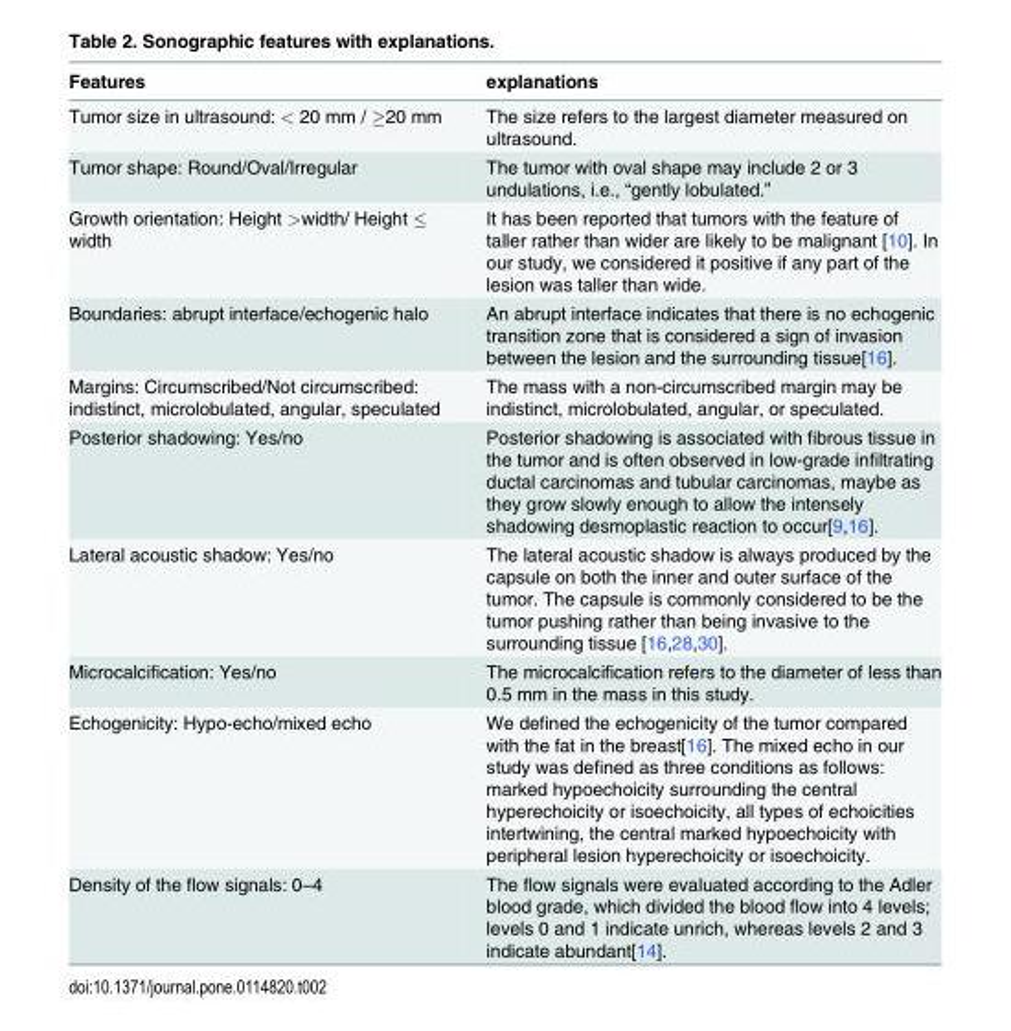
<table><thead><tr><td>Features</td><td>explanations</td></tr></thead><tbody><tr><td>Tumor size in ultrasound: &lt; 20 mm / ≥20 mm</td><td>The size refers to the largest diameter measured on ultrasound.</td></tr><tr><td>Tumor shape: Round/Oval/Irregular</td><td>The tumor with oval shape may include 2 or 3 undulations, i.e., “gently lobulated.”</td></tr><tr><td>Growth orientation: Height &gt;width/ Height ≤ width</td><td>It has been reported that tumors with the feature of taller rather than wider are likely to be malignant [10]. In our study, we considered it positive if any part of the lesion was taller than wide.</td></tr><tr><td>Boundaries: abrupt interface/echogenic halo</td><td>An abrupt interface indicates that there is no echogenic transition zone that is considered a sign of invasion between the lesion and the surrounding tissue[16].</td></tr><tr><td>Margins: Circumscribed/Not circumscribed: indistinct, microlobulated, angular, speculated</td><td>The mass with a non-circumscribed margin may be indistinct, microlobulated, angular, or speculated.</td></tr><tr><td>Posterior shadowing: Yes/no</td><td>Posterior shadowing is associated with fibrous tissue in the tumor and is often observed in low-grade infiltrating ductal carcinomas and tubular carcinomas, maybe as they grow slowly enough to allow the intensely shadowing desmoplastic reaction to occur[9,16].</td></tr><tr><td>Lateral acoustic shadow: Yes/no</td><td>The lateral acoustic shadow is always produced by the capsule on both the inner and outer surface of the tumor. The capsule is commonly considered to be the tumor pushing rather than being invasive to the surrounding tissue [16,28,30].</td></tr><tr><td>Microcalcification: Yes/no</td><td>The microcalcification refers to the diameter of less than 0.5 mm in the mass in this study.</td></tr><tr><td>Echogenicity: Hypo-echo/mixed echo</td><td>We defined the echogenicity of the tumor compared with the fat in the breast[16]. The mixed echo in our study was defined as three conditions as follows: marked hypoechoicity surrounding the central hyperechoicity or isoechoicity, all types of echoicities intertwining, the central marked hypoechoicity with peripheral lesion hyperechoicity or isoechoicity.</td></tr><tr><td>Density of the flow signals: 0–4</td><td>The flow signals were evaluated according to the Adler blood grade, which divided the blood flow into 4 levels; levels 0 and 1 indicate unrich, whereas levels 2 and 3 indicate abundant[14].</td></tr></tbody></table>